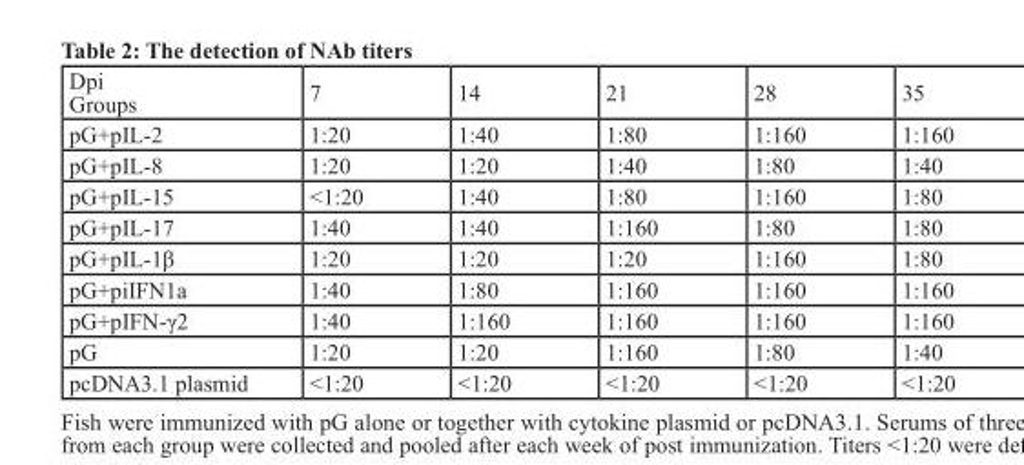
<table><tbody><tr><td>Dpi Groups</td><td>7</td><td>14</td><td>21</td><td>28</td><td>35</td></tr><tr><td>pG+pIL-2</td><td>1:20</td><td>1:40</td><td>1:80</td><td>1:160</td><td>1:160</td></tr><tr><td>pG+pIL-8</td><td>1:20</td><td>1:20</td><td>1:40</td><td>1:80</td><td>1:40</td></tr><tr><td>pG+pIL-15</td><td>&lt;1:20</td><td>1:40</td><td>1:80</td><td>1:160</td><td>1:80</td></tr><tr><td>pG+pIL-17</td><td>1:40</td><td>1:40</td><td>1:160</td><td>1:80</td><td>1:80</td></tr><tr><td>pG+pIL-1β</td><td>1:20</td><td>1:20</td><td>1:20</td><td>1:160</td><td>1:80</td></tr><tr><td>pG+piIFN1a</td><td>1:40</td><td>1:80</td><td>1:160</td><td>1:160</td><td>1:160</td></tr><tr><td>pG+pIFN-γ2</td><td>1:40</td><td>1:160</td><td>1:160</td><td>1:160</td><td>1:160</td></tr><tr><td>pG</td><td>1:20</td><td>1:20</td><td>1:160</td><td>1:80</td><td>1:40</td></tr><tr><td>pcDNA3.1 plasmid</td><td>&lt;1:20</td><td>&lt;1:20</td><td>&lt;1:20</td><td>&lt;1:20</td><td>&lt;1:20</td></tr></tbody></table>